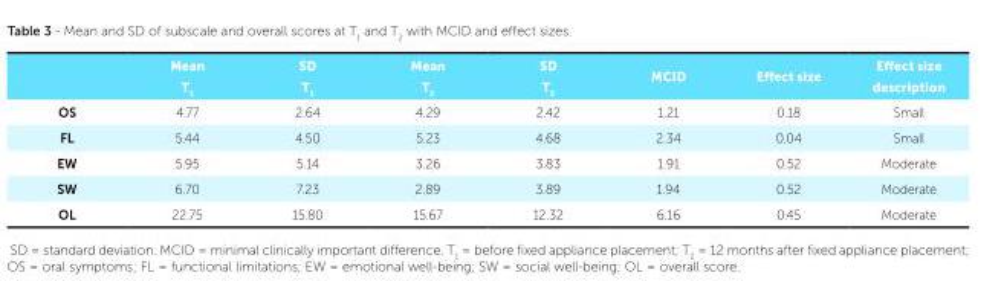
<table><thead><tr><td></td><td>Mean T<sub>1</sub></td><td>SD T<sub>1</sub></td><td>Mean T<sub>2</sub></td><td>SD T<sub>2</sub></td><td>MCID</td><td>Effect size</td><td>Effect size description</td></tr></thead><tbody><tr><td>OS</td><td>4.77</td><td>2.64</td><td>4.29</td><td>2.42</td><td>1.21</td><td>0.18</td><td>Small</td></tr><tr><td>FL</td><td>5.44</td><td>4.50</td><td>5.23</td><td>4.68</td><td>2.34</td><td>0.04</td><td>Small</td></tr><tr><td>EW</td><td>5.95</td><td>5.14</td><td>3.26</td><td>3.83</td><td>1.91</td><td>0.52</td><td>Moderate</td></tr><tr><td>SW</td><td>6.70</td><td>7.23</td><td>2.89</td><td>3.89</td><td>1.94</td><td>0.52</td><td>Moderate</td></tr><tr><td>OL</td><td>22.75</td><td>15.80</td><td>15.67</td><td>12.32</td><td>6.16</td><td>0.45</td><td>Moderate</td></tr></tbody></table>